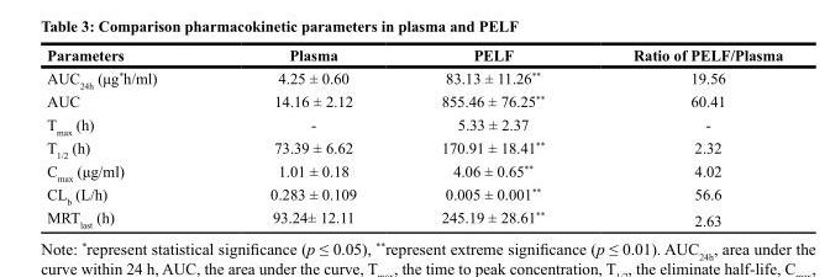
<table><thead><tr><td>Parameters</td><td>Plasma</td><td>PELF</td><td>Ratio of PELF/Plasma</td></tr></thead><tbody><tr><td>AUC<sub>24h</sub> (μg*h/ml)</td><td>4.25 ± 0.60</td><td>83.13 ± 11.26**</td><td>19.56</td></tr><tr><td>AUC</td><td>14.16 ± 2.12</td><td>855.46 ± 76.25**</td><td>60.41</td></tr><tr><td>T<sub>max</sub> (h)</td><td>-</td><td>5.33 ± 2.37</td><td>-</td></tr><tr><td>T<sub>1/2</sub> (h)</td><td>73.39 ± 6.62</td><td>170.91 ± 18.41**</td><td>2.32</td></tr><tr><td>C<sub>max</sub> (μg/ml)</td><td>1.01 ± 0.18</td><td>4.06 ± 0.65**</td><td>4.02</td></tr><tr><td>CL<sub>b</sub> (L/h)</td><td>0.283 ± 0.109</td><td>0.005 ± 0.001**</td><td>56.6</td></tr><tr><td>MRT<sub>last</sub> (h)</td><td>93.24± 12.11</td><td>245.19 ± 28.61**</td><td>2.63</td></tr></tbody></table>